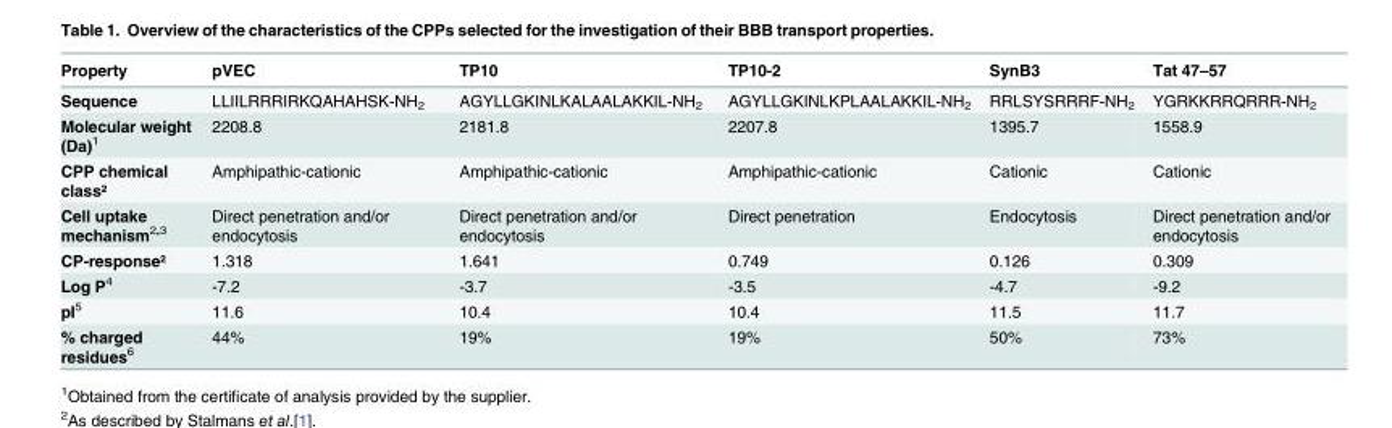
<table><thead><tr><td>Property</td><td>pVEC</td><td>TP10</td><td>TP10-2</td><td>SynB3</td><td>Tat 47–57</td></tr></thead><tbody><tr><td>Sequence</td><td>LLIILRRRIRKQAHAHSK-NH<sub>2</sub></td><td>AGYLLGKINLKALAALAKKIL-NH<sub>2</sub></td><td>AGYLLGKINLKPLAALAKKIL-NH<sub>2</sub></td><td>RRLSYSRRRF-NH<sub>2</sub></td><td>YGRKKRRQRRR-NH<sub>2</sub></td></tr><tr><td>Molecular weight (Da)<sup>1</sup></td><td>2208.8</td><td>2181.8</td><td>2207.8</td><td>1395.7</td><td>1558.9</td></tr><tr><td>CPP chemical class²</td><td>Amphipathic-cationic</td><td>Amphipathic-cationic</td><td>Amphipathic-cationic</td><td>Cationic</td><td>Cationic</td></tr><tr><td>Cell uptake mechanism<sup>2,3</sup></td><td>Direct penetration and/or endocytosis</td><td>Direct penetration and/or endocytosis</td><td>Direct penetration</td><td>Endocytosis</td><td>Direct penetration and/or endocytosis</td></tr><tr><td>CP-response²</td><td>1.318</td><td>1.641</td><td>0.749</td><td>0.126</td><td>0.309</td></tr><tr><td>Log P<sup>4</sup></td><td>-7.2</td><td>-3.7</td><td>-3.5</td><td>-4.7</td><td>-9.2</td></tr><tr><td>pI<sup>5</sup></td><td>11.6</td><td>10.4</td><td>10.4</td><td>11.5</td><td>11.7</td></tr><tr><td>% charged residues<sup>6</sup></td><td>44%</td><td>19%</td><td>19%</td><td>50%</td><td>73%</td></tr></tbody></table>